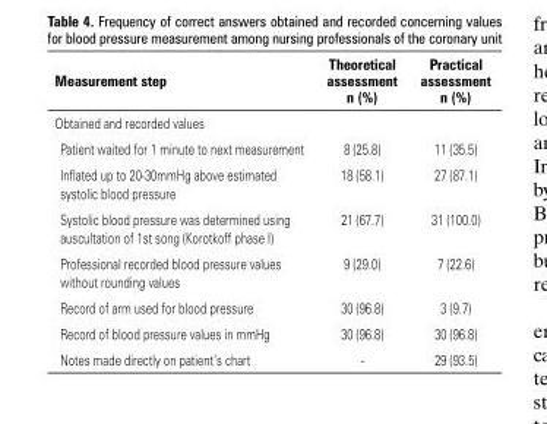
<table><thead><tr><td>Measurement step</td><td>Theoretical assessment n (%)</td><td>Practical assessment n (%)</td></tr></thead><tbody><tr><td colspan="3">Obtained and recorded values</td></tr><tr><td>Patient waited for 1 minute to next measurement</td><td>8 (25.8)</td><td>11 (35.5)</td></tr><tr><td>Inflated up to 20-30mmHg above estimated systolic blood pressure</td><td>18 (58.1)</td><td>27 (87.1)</td></tr><tr><td>Systolic blood pressure was determined using auscultation of 1st song (Korotkoff phase I)</td><td>21 (67.7)</td><td>31 (100.0)</td></tr><tr><td>Professional recorded blood pressure values without rounding values</td><td>9 (29.0)</td><td>7 (22.6)</td></tr><tr><td>Record of arm used for blood pressure</td><td>30 (96.8)</td><td>3 (9.7)</td></tr><tr><td>Record of blood pressure values in mmHg</td><td>30 (96.8)</td><td>30 (96.8)</td></tr><tr><td>Notes made directly on patient’s chart</td><td>-</td><td>29 (93.5)</td></tr></tbody></table>